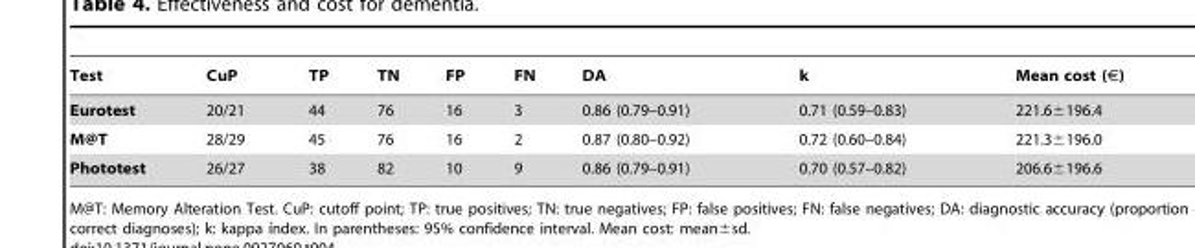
<table><thead><tr><td>Test</td><td>CuP</td><td>TP</td><td>TN</td><td>FP</td><td>FN</td><td>DA</td><td>k</td><td>Mean cost (€)</td></tr></thead><tbody><tr><td>Eurotest</td><td>20/21</td><td>44</td><td>76</td><td>16</td><td>3</td><td>0.86 (0.79–0.91)</td><td>0.71 (0.59–0.83)</td><td>221.6±196.4</td></tr><tr><td>M@T</td><td>28/29</td><td>45</td><td>76</td><td>16</td><td>2</td><td>0.87 (0.80–0.92)</td><td>0.72 (0.60–0.84)</td><td>221.3±196.0</td></tr><tr><td>Phototest</td><td>26/27</td><td>38</td><td>82</td><td>10</td><td>9</td><td>0.86 (0.79–0.91)</td><td>0.70 (0.57–0.82)</td><td>206.6±196.6</td></tr></tbody></table>